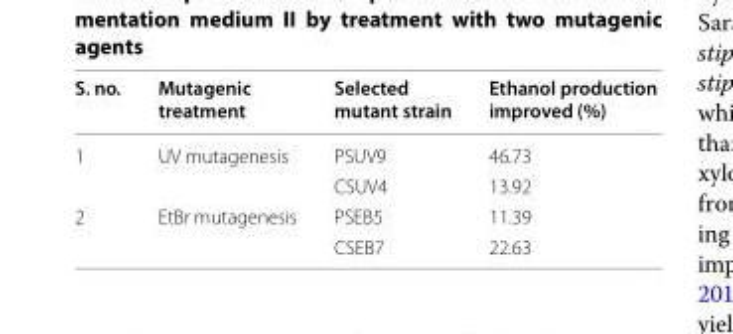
<table><thead><tr><td>S. no.</td><td>Mutagenic treatment</td><td>Selected mutant strain</td><td>Ethanol production improved (%)</td></tr></thead><tbody><tr><td rowspan="2">1</td><td rowspan="2">UV mutagenesis</td><td>PSUV9</td><td>46.73</td></tr><tr><td>CSUV4</td><td>13.92</td></tr><tr><td rowspan="2">2</td><td rowspan="2">EtBr mutagenesis</td><td>PSEB5</td><td>11.39</td></tr><tr><td>CSEB7</td><td>22.63</td></tr></tbody></table>